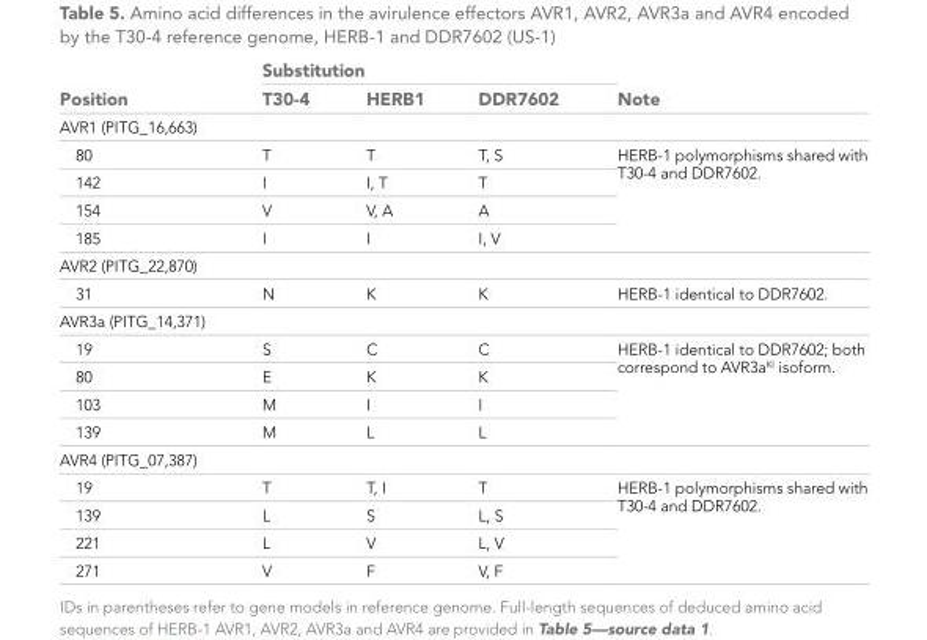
<table><thead><tr><td rowspan="2">Position</td><td colspan="3">Substitution</td><td rowspan="2">Note</td></tr><tr><td>T30-4</td><td>HERB1</td><td>DDR7602</td></tr></thead><tbody><tr><td colspan="5">AVR1 (PITG_16,663)</td></tr><tr><td>80</td><td>T</td><td>T</td><td>T, S</td><td rowspan="4">HERB-1 polymorphisms shared with T30-4 and DDR7602.</td></tr><tr><td>142</td><td>I</td><td>I, T</td><td>T</td></tr><tr><td>154</td><td>V</td><td>V, A</td><td>A</td></tr><tr><td>185</td><td>I</td><td>I</td><td>I, V</td></tr><tr><td colspan="5">AVR2 (PITG_22,870)</td></tr><tr><td>31</td><td>N</td><td>K</td><td>K</td><td>HERB-1 identical to DDR7602.</td></tr><tr><td colspan="5">AVR3a (PITG_14,371)</td></tr><tr><td>19</td><td>S</td><td>C</td><td>C</td><td rowspan="4">HERB-1 identical to DDR7602; both correspond to AVR3a<sup>KI</sup> isoform.</td></tr><tr><td>80</td><td>E</td><td>K</td><td>K</td></tr><tr><td>103</td><td>M</td><td>I</td><td>I</td></tr><tr><td>139</td><td>M</td><td>L</td><td>L</td></tr><tr><td colspan="5">AVR4 (PITG_07,387)</td></tr><tr><td>19</td><td>T</td><td>T, I</td><td>T</td><td rowspan="4">HERB-1 polymorphisms shared with T30-4 and DDR7602.</td></tr><tr><td>139</td><td>L</td><td>S</td><td>L, S</td></tr><tr><td>221</td><td>L</td><td>V</td><td>L, V</td></tr><tr><td>271</td><td>V</td><td>F</td><td>V, F</td></tr></tbody></table>